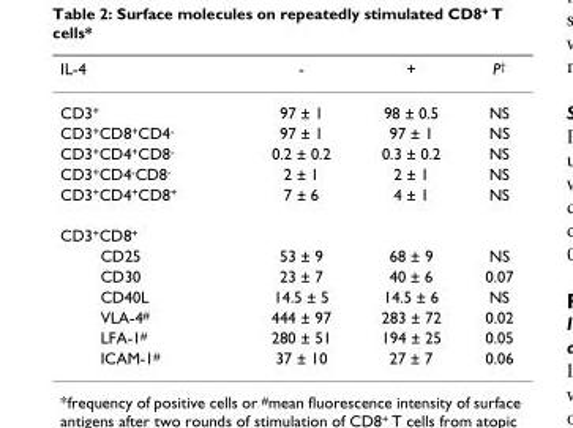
<table><thead><tr><td>IL-4</td><td>-</td><td>+</td><td>P<sup>†</sup></td></tr></thead><tbody><tr><td>CD3<sup>+</sup></td><td>97 ± 1</td><td>98 ± 0.5</td><td>NS</td></tr><tr><td>CD3<sup>+</sup>CD8<sup>+</sup>CD4<sup>-</sup></td><td>97 ± 1</td><td>97 ± 1</td><td>NS</td></tr><tr><td>CD3<sup>+</sup>CD4<sup>+</sup>CD8<sup>-</sup></td><td>0.2 ± 0.2</td><td>0.3 ± 0.2</td><td>NS</td></tr><tr><td>CD3<sup>+</sup>CD4<sup>-</sup>CD8<sup>-</sup></td><td>2 ± 1</td><td>2 ± 1</td><td>NS</td></tr><tr><td>CD3<sup>+</sup>CD4<sup>+</sup>CD8<sup>+</sup></td><td>7 ± 6</td><td>4 ± 1</td><td>NS</td></tr><tr><td colspan="4">CD3<sup>+</sup>CD8<sup>+</sup></td></tr><tr><td>CD25</td><td>53 ± 9</td><td>68 ± 9</td><td>NS</td></tr><tr><td>CD30</td><td>23 ± 7</td><td>40 ± 6</td><td>0.07</td></tr><tr><td>CD40L</td><td>14.5 ± 5</td><td>14.5 ± 6</td><td>NS</td></tr><tr><td>VLA-4<sup>#</sup></td><td>444 ± 97</td><td>283 ± 72</td><td>0.02</td></tr><tr><td>LFA-1<sup>#</sup></td><td>280 ± 51</td><td>194 ± 25</td><td>0.05</td></tr><tr><td>ICAM-1<sup>#</sup></td><td>37 ± 10</td><td>27 ± 7</td><td>0.06</td></tr></tbody></table>